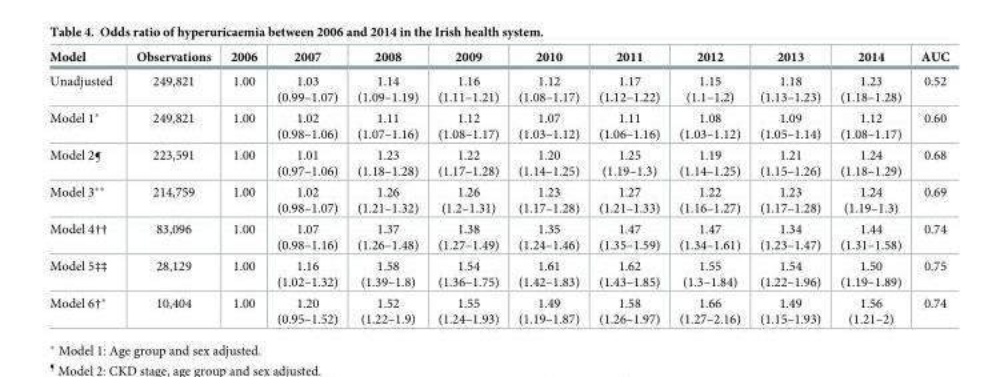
<table><thead><tr><td>Model</td><td>Observations</td><td>2006</td><td>2007</td><td>2008</td><td>2009</td><td>2010</td><td>2011</td><td>2012</td><td>2013</td><td>2014</td><td>AUC</td></tr></thead><tbody><tr><td>Unadjusted</td><td>249,821</td><td>1.00</td><td>1.03 (0.99–1.07)</td><td>1.14 (1.09–1.19)</td><td>1.16 (1.11–1.21)</td><td>1.12 (1.08–1.17)</td><td>1.17 (1.12–1.22)</td><td>1.15 (1.1–1.2)</td><td>1.18 (1.13–1.23)</td><td>1.23 (1.18–1.28)</td><td>0.52</td></tr><tr><td>Model 1*</td><td>249,821</td><td>1.00</td><td>1.02 (0.98–1.06)</td><td>1.11 (1.07–1.16)</td><td>1.12 (1.08–1.17)</td><td>1.07 (1.03–1.12)</td><td>1.11 (1.06–1.16)</td><td>1.08 (1.03–1.12)</td><td>1.09 (1.05–1.14)</td><td>1.12 (1.08–1.17)</td><td>0.60</td></tr><tr><td>Model 2¶</td><td>223,591</td><td>1.00</td><td>1.01 (0.97–1.06)</td><td>1.23 (1.18–1.28)</td><td>1.22 (1.17–1.28)</td><td>1.20 (1.14–1.25)</td><td>1.25 (1.19–1.3)</td><td>1.19 (1.14–1.25)</td><td>1.21 (1.15–1.26)</td><td>1.24 (1.18–1.29)</td><td>0.68</td></tr><tr><td>Model 3**</td><td>214,759</td><td>1.00</td><td>1.02 (0.98–1.07)</td><td>1.26 (1.21–1.32)</td><td>1.26 (1.2–1.31)</td><td>1.23 (1.17–1.28)</td><td>1.27 (1.21–1.33)</td><td>1.22 (1.16–1.27)</td><td>1.23 (1.17–1.28)</td><td>1.24 (1.19–1.3)</td><td>0.69</td></tr><tr><td>Model 4††</td><td>83,096</td><td>1.00</td><td>1.07 (0.98–1.16)</td><td>1.37 (1.26–1.48)</td><td>1.38 (1.27–1.49)</td><td>1.35 (1.24–1.46)</td><td>1.47 (1.35–1.59)</td><td>1.47 (1.34–1.61)</td><td>1.34 (1.23–1.47)</td><td>1.44 (1.31–1.58)</td><td>0.74</td></tr><tr><td>Model 5‡‡</td><td>28,129</td><td>1.00</td><td>1.16 (1.02–1.32)</td><td>1.58 (1.39–1.8)</td><td>1.54 (1.36–1.75)</td><td>1.61 (1.42–1.83)</td><td>1.62 (1.43–1.85)</td><td>1.55 (1.3–1.84)</td><td>1.54 (1.22–1.96)</td><td>1.50 (1.19–1.89)</td><td>0.75</td></tr><tr><td>Model 6†*</td><td>10,404</td><td>1.00</td><td>1.20 (0.95–1.52)</td><td>1.52 (1.22–1.9)</td><td>1.55 (1.24–1.93)</td><td>1.49 (1.19–1.87)</td><td>1.58 (1.26–1.97)</td><td>1.66 (1.27–2.16)</td><td>1.49 (1.15–1.93)</td><td>1.56 (1.21–2)</td><td>0.74</td></tr></tbody></table>